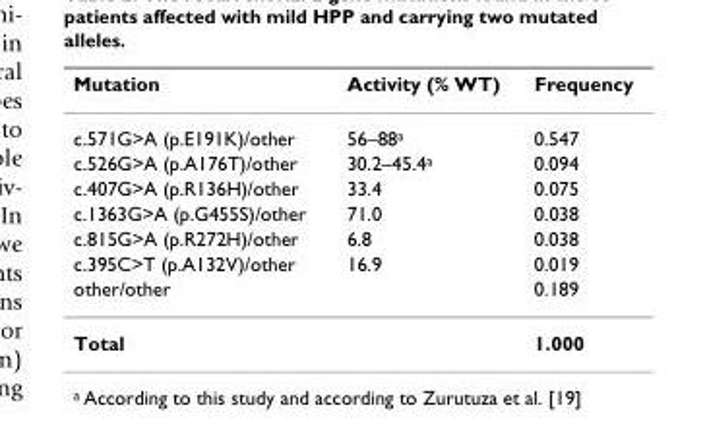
<table><thead><tr><td>Mutation</td><td>Activity (% WT)</td><td>Frequency</td></tr></thead><tbody><tr><td>c.571G&gt;A (p.E191K)/other</td><td>56–88<sup>a</sup></td><td>0.547</td></tr><tr><td>c.526G&gt;A (p.A176T)/other</td><td>30.2–45.4<sup>a</sup></td><td>0.094</td></tr><tr><td>c.407G&gt;A (p.R136H)/other</td><td>33.4</td><td>0.075</td></tr><tr><td>c.1363G&gt;A (p.G455S)/other</td><td>71.0</td><td>0.038</td></tr><tr><td>c.815G&gt;A (p.R272H)/other</td><td>6.8</td><td>0.038</td></tr><tr><td>c.395C&gt;T (p.A132V)/other</td><td>16.9</td><td>0.019</td></tr><tr><td>other/other</td><td></td><td>0.189</td></tr><tr><td>Total</td><td></td><td>1.000</td></tr></tbody></table>